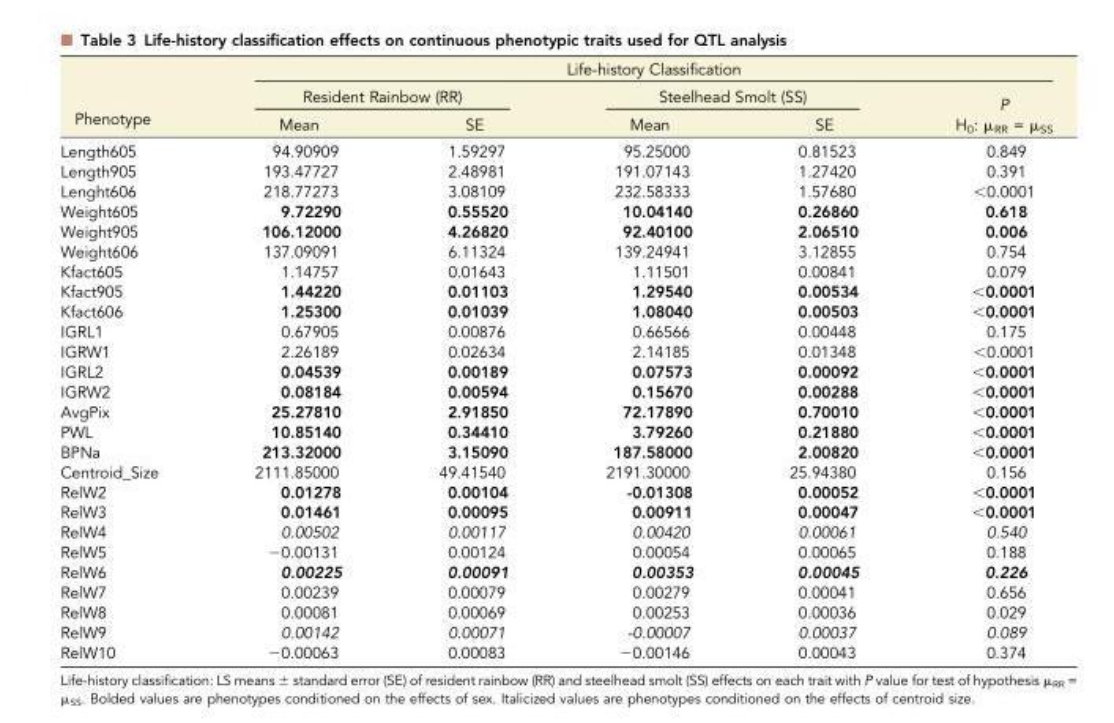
<table><thead><tr><td rowspan="3">Phenotype</td><td colspan="5">Life-history Classification</td></tr><tr><td colspan="2">Resident Rainbow (RR)</td><td colspan="2">Steelhead Smolt (SS)</td><td rowspan="2">P H<sub>0</sub>: μ<sub>RR</sub> = μ<sub>SS</sub></td></tr><tr><td>Mean</td><td>SE</td><td>Mean</td><td>SE</td></tr></thead><tbody><tr><td>Length605</td><td>94.90909</td><td>1.59297</td><td>95.25000</td><td>0.81523</td><td>0.849</td></tr><tr><td>Length905</td><td>193.47727</td><td>2.48981</td><td>191.07143</td><td>1.27420</td><td>0.391</td></tr><tr><td>Lenght606</td><td>218.77273</td><td>3.08109</td><td>232.58333</td><td>1.57680</td><td>&lt;0.0001</td></tr><tr><td>Weight605</td><td>9.72290</td><td>0.55520</td><td>10.04140</td><td>0.26860</td><td>0.618</td></tr><tr><td>Weight905</td><td>106.12000</td><td>4.26820</td><td>92.40100</td><td>2.06510</td><td>0.006</td></tr><tr><td>Weight606</td><td>137.09091</td><td>6.11324</td><td>139.24941</td><td>3.12855</td><td>0.754</td></tr><tr><td>Kfact605</td><td>1.14757</td><td>0.01643</td><td>1.11501</td><td>0.00841</td><td>0.079</td></tr><tr><td>Kfact905</td><td>1.44220</td><td>0.01103</td><td>1.29540</td><td>0.00534</td><td>&lt;0.0001</td></tr><tr><td>Kfact606</td><td>1.25300</td><td>0.01039</td><td>1.08040</td><td>0.00503</td><td>&lt;0.0001</td></tr><tr><td>IGRL1</td><td>0.67905</td><td>0.00876</td><td>0.66566</td><td>0.00448</td><td>0.175</td></tr><tr><td>IGRW1</td><td>2.26189</td><td>0.02634</td><td>2.14185</td><td>0.01348</td><td>&lt;0.0001</td></tr><tr><td>IGRL2</td><td>0.04539</td><td>0.00189</td><td>0.07573</td><td>0.00092</td><td>&lt;0.0001</td></tr><tr><td>IGRW2</td><td>0.08184</td><td>0.00594</td><td>0.15670</td><td>0.00288</td><td>&lt;0.0001</td></tr><tr><td>AvgPix</td><td>25.27810</td><td>2.91850</td><td>72.17890</td><td>0.70010</td><td>&lt;0.0001</td></tr><tr><td>PWL</td><td>10.85140</td><td>0.34410</td><td>3.79260</td><td>0.21880</td><td>&lt;0.0001</td></tr><tr><td>BPNa</td><td>213.32000</td><td>3.15090</td><td>187.58000</td><td>2.00820</td><td>&lt;0.0001</td></tr><tr><td>Centroid_Size</td><td>2111.85000</td><td>49.41540</td><td>2191.30000</td><td>25.94380</td><td>0.156</td></tr><tr><td>RelW2</td><td>0.01278</td><td>0.00104</td><td>-0.01308</td><td>0.00052</td><td>&lt;0.0001</td></tr><tr><td>RelW3</td><td>0.01461</td><td>0.00095</td><td>0.00911</td><td>0.00047</td><td>&lt;0.0001</td></tr><tr><td>RelW4</td><td>0.00502</td><td>0.00117</td><td>0.00420</td><td>0.00061</td><td>0.540</td></tr><tr><td>RelW5</td><td>−0.00131</td><td>0.00124</td><td>0.00054</td><td>0.00065</td><td>0.188</td></tr><tr><td>RelW6</td><td>0.00225</td><td>0.00091</td><td>0.00353</td><td>0.00045</td><td>0.226</td></tr><tr><td>RelW7</td><td>0.00239</td><td>0.00079</td><td>0.00279</td><td>0.00041</td><td>0.656</td></tr><tr><td>RelW8</td><td>0.00081</td><td>0.00069</td><td>0.00253</td><td>0.00036</td><td>0.029</td></tr><tr><td>RelW9</td><td>0.00142</td><td>0.00071</td><td>-0.00007</td><td>0.00037</td><td>0.089</td></tr><tr><td>RelW10</td><td>−0.00063</td><td>0.00083</td><td>−0.00146</td><td>0.00043</td><td>0.374</td></tr></tbody></table>